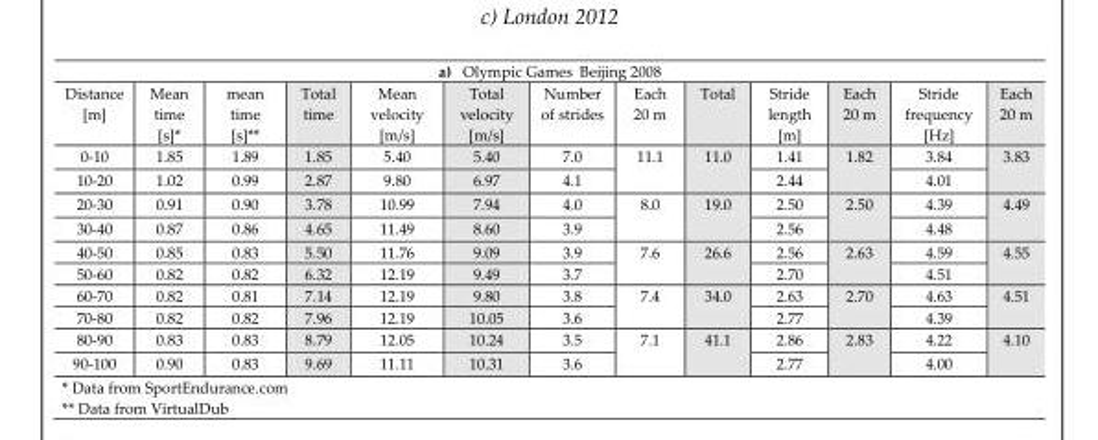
<table><thead><tr><td colspan="13">a) Olympic Games Beijing 2008</td></tr><tr><td>Distance [m]</td><td>Mean time [s]*</td><td>mean time [s]**</td><td>Total time</td><td>Mean velocity [m/s]</td><td>Total velocity [m/s]</td><td>Number of strides</td><td>Each 20 m</td><td>Total</td><td>Stride length [m]</td><td>Each 20 m</td><td>Stride frequency [Hz]</td><td>Each 20 m</td></tr></thead><tbody><tr><td>0-10</td><td>1.85</td><td>1.89</td><td>1.85</td><td>5.40</td><td>5.40</td><td>7.0</td><td rowspan="2">11.1</td><td rowspan="2">11.0</td><td>1.41</td><td rowspan="2">1.82</td><td>3.84</td><td rowspan="2">3.83</td></tr><tr><td>10-20</td><td>1.02</td><td>0.99</td><td>2.87</td><td>9.80</td><td>6.97</td><td>4.1</td><td>2.44</td><td>4.01</td></tr><tr><td>20-30</td><td>0.91</td><td>0.90</td><td>3.78</td><td>10.99</td><td>7.94</td><td>4.0</td><td rowspan="2">8.0</td><td rowspan="2">19.0</td><td>2.50</td><td rowspan="2">2.50</td><td>4.39</td><td rowspan="2">4.49</td></tr><tr><td>30-40</td><td>0.87</td><td>0.86</td><td>4.65</td><td>11.49</td><td>8.60</td><td>3.9</td><td>2.56</td><td>4.48</td></tr><tr><td>40-50</td><td>0.85</td><td>0.83</td><td>5.50</td><td>11.76</td><td>9.09</td><td>3.9</td><td rowspan="2">7.6</td><td rowspan="2">26.6</td><td>2.56</td><td rowspan="2">2.63</td><td>4.59</td><td rowspan="2">4.55</td></tr><tr><td>50-60</td><td>0.82</td><td>0.82</td><td>6.32</td><td>12.19</td><td>9.49</td><td>3.7</td><td>2.70</td><td>4.51</td></tr><tr><td>60-70</td><td>0.82</td><td>0.81</td><td>7.14</td><td>12.19</td><td>9.80</td><td>3.8</td><td rowspan="2">7.4</td><td rowspan="2">34.0</td><td>2.63</td><td rowspan="2">2.70</td><td>4.63</td><td rowspan="2">4.51</td></tr><tr><td>70-80</td><td>0.82</td><td>0.82</td><td>7.96</td><td>12.19</td><td>10.05</td><td>3.6</td><td>2.77</td><td>4.39</td></tr><tr><td>80-90</td><td>0.83</td><td>0.83</td><td>8.79</td><td>12.05</td><td>10.24</td><td>3.5</td><td rowspan="2">7.1</td><td rowspan="2">41.1</td><td>2.86</td><td rowspan="2">2.83</td><td>4.22</td><td rowspan="2">4.10</td></tr><tr><td>90-100</td><td>0.90</td><td>0.83</td><td>9.69</td><td>11.11</td><td>10.31</td><td>3.6</td><td>2.77</td><td>4.00</td></tr></tbody></table>